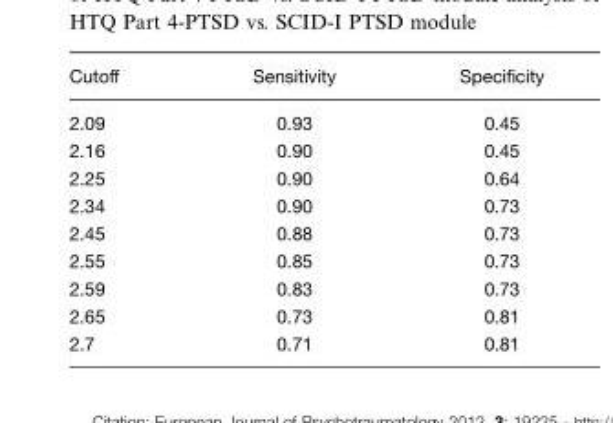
<table><thead><tr><td>Cutoff</td><td>Sensitivity</td><td>Specificity</td></tr></thead><tbody><tr><td>2.09</td><td>0.93</td><td>0.45</td></tr><tr><td>2.16</td><td>0.90</td><td>0.45</td></tr><tr><td>2.25</td><td>0.90</td><td>0.64</td></tr><tr><td>2.34</td><td>0.90</td><td>0.73</td></tr><tr><td>2.45</td><td>0.88</td><td>0.73</td></tr><tr><td>2.55</td><td>0.85</td><td>0.73</td></tr><tr><td>2.59</td><td>0.83</td><td>0.73</td></tr><tr><td>2.65</td><td>0.73</td><td>0.81</td></tr><tr><td>2.7</td><td>0.71</td><td>0.81</td></tr></tbody></table>